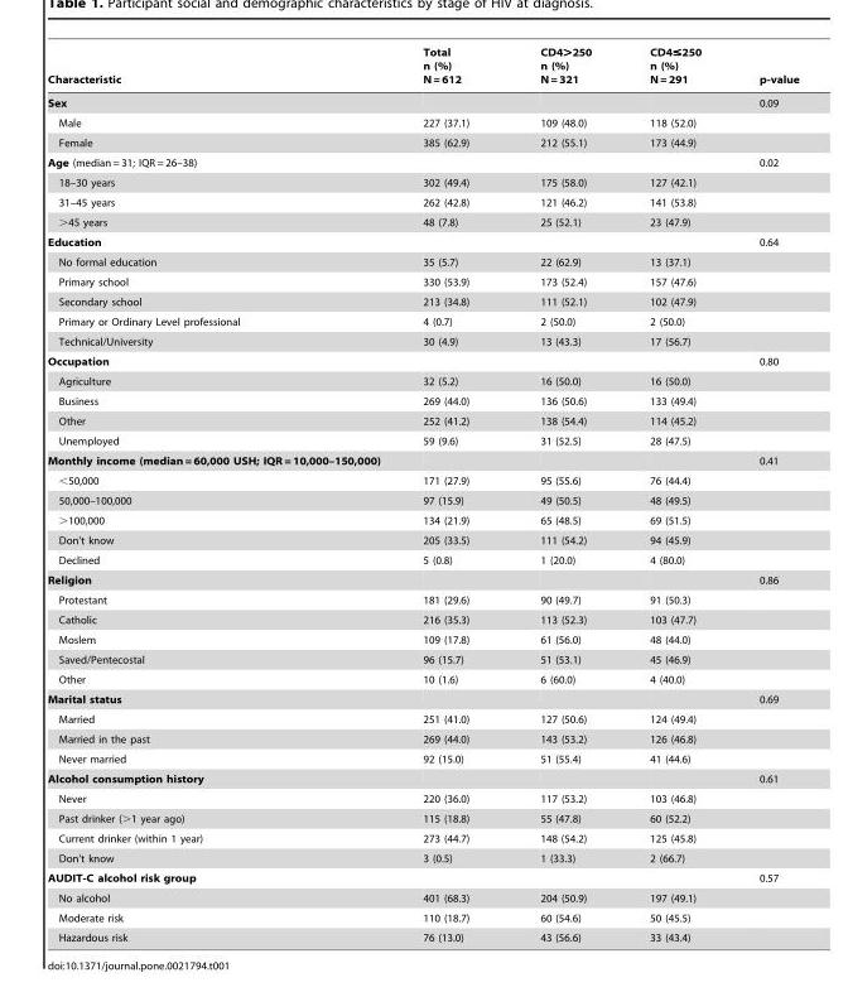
<table><thead><tr><td>Characteristic</td><td>Total n (%) N = 612</td><td>CD4&gt;250 n (%) N = 321</td><td>CD4≤250 n (%) N = 291</td><td>p-value</td></tr></thead><tbody><tr><td>Sex</td><td></td><td></td><td></td><td>0.09</td></tr><tr><td>Male</td><td>227 (37.1)</td><td>109 (48.0)</td><td>118 (52.0)</td><td></td></tr><tr><td>Female</td><td>385 (62.9)</td><td>212 (55.1)</td><td>173 (44.9)</td><td></td></tr><tr><td>Age (median = 31; IQR = 26–38)</td><td></td><td></td><td></td><td>0.02</td></tr><tr><td>18–30 years</td><td>302 (49.4)</td><td>175 (58.0)</td><td>127 (42.1)</td><td></td></tr><tr><td>31–45 years</td><td>262 (42.8)</td><td>121 (46.2)</td><td>141 (53.8)</td><td></td></tr><tr><td>&gt;45 years</td><td>48 (7.8)</td><td>25 (52.1)</td><td>23 (47.9)</td><td></td></tr><tr><td>Education</td><td></td><td></td><td></td><td>0.64</td></tr><tr><td>No formal education</td><td>35 (5.7)</td><td>22 (62.9)</td><td>13 (37.1)</td><td></td></tr><tr><td>Primary school</td><td>330 (53.9)</td><td>173 (52.4)</td><td>157 (47.6)</td><td></td></tr><tr><td>Secondary school</td><td>213 (34.8)</td><td>111 (52.1)</td><td>102 (47.9)</td><td></td></tr><tr><td>Primary or Ordinary Level professional</td><td>4 (0.7)</td><td>2 (50.0)</td><td>2 (50.0)</td><td></td></tr><tr><td>Technical/University</td><td>30 (4.9)</td><td>13 (43.3)</td><td>17 (56.7)</td><td></td></tr><tr><td>Occupation</td><td></td><td></td><td></td><td>0.80</td></tr><tr><td>Agriculture</td><td>32 (5.2)</td><td>16 (50.0)</td><td>16 (50.0)</td><td></td></tr><tr><td>Business</td><td>269 (44.0)</td><td>136 (50.6)</td><td>133 (49.4)</td><td></td></tr><tr><td>Other</td><td>252 (41.2)</td><td>138 (54.4)</td><td>114 (45.2)</td><td></td></tr><tr><td>Unemployed</td><td>59 (9.6)</td><td>31 (52.5)</td><td>28 (47.5)</td><td></td></tr><tr><td>Monthly income (median = 60,000 USH; IQR = 10,000–150,000)</td><td></td><td></td><td></td><td>0.41</td></tr><tr><td>&lt;50,000</td><td>171 (27.9)</td><td>95 (55.6)</td><td>76 (44.4)</td><td></td></tr><tr><td>50,000–100,000</td><td>97 (15.9)</td><td>49 (50.5)</td><td>48 (49.5)</td><td></td></tr><tr><td>&gt;100,000</td><td>134 (21.9)</td><td>65 (48.5)</td><td>69 (51.5)</td><td></td></tr><tr><td>Don’t know</td><td>205 (33.5)</td><td>111 (54.2)</td><td>94 (45.9)</td><td></td></tr><tr><td>Declined</td><td>5 (0.8)</td><td>1 (20.0)</td><td>4 (80.0)</td><td></td></tr><tr><td>Religion</td><td></td><td></td><td></td><td>0.86</td></tr><tr><td>Protestant</td><td>181 (29.6)</td><td>90 (49.7)</td><td>91 (50.3)</td><td></td></tr><tr><td>Catholic</td><td>216 (35.3)</td><td>113 (52.3)</td><td>103 (47.7)</td><td></td></tr><tr><td>Moslem</td><td>109 (17.8)</td><td>61 (56.0)</td><td>48 (44.0)</td><td></td></tr><tr><td>Saved/Pentecostal</td><td>96 (15.7)</td><td>51 (53.1)</td><td>45 (46.9)</td><td></td></tr><tr><td>Other</td><td>10 (1.6)</td><td>6 (60.0)</td><td>4 (40.0)</td><td></td></tr><tr><td>Marital status</td><td></td><td></td><td></td><td>0.69</td></tr><tr><td>Married</td><td>251 (41.0)</td><td>127 (50.6)</td><td>124 (49.4)</td><td></td></tr><tr><td>Married in the past</td><td>269 (44.0)</td><td>143 (53.2)</td><td>126 (46.8)</td><td></td></tr><tr><td>Never married</td><td>92 (15.0)</td><td>51 (55.4)</td><td>41 (44.6)</td><td></td></tr><tr><td>Alcohol consumption history</td><td></td><td></td><td></td><td>0.61</td></tr><tr><td>Never</td><td>220 (36.0)</td><td>117 (53.2)</td><td>103 (46.8)</td><td></td></tr><tr><td>Past drinker (&gt;1 year ago)</td><td>115 (18.8)</td><td>55 (47.8)</td><td>60 (52.2)</td><td></td></tr><tr><td>Current drinker (within 1 year)</td><td>273 (44.7)</td><td>148 (54.2)</td><td>125 (45.8)</td><td></td></tr><tr><td>Don’t know</td><td>3 (0.5)</td><td>1 (33.3)</td><td>2 (66.7)</td><td></td></tr><tr><td>AUDIT-C alcohol risk group</td><td></td><td></td><td></td><td>0.57</td></tr><tr><td>No alcohol</td><td>401 (68.3)</td><td>204 (50.9)</td><td>197 (49.1)</td><td></td></tr><tr><td>Moderate risk</td><td>110 (18.7)</td><td>60 (54.6)</td><td>50 (45.5)</td><td></td></tr><tr><td>Hazardous risk</td><td>76 (13.0)</td><td>43 (56.6)</td><td>33 (43.4)</td><td></td></tr></tbody></table>